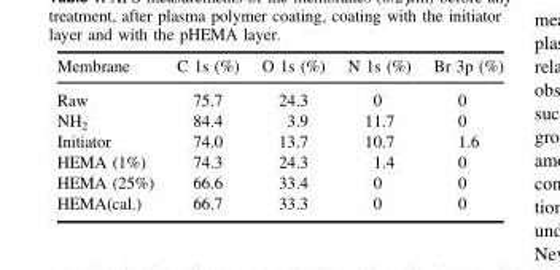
<table><thead><tr><td>Membrane</td><td>C 1s (%)</td><td>O 1s (%)</td><td>N 1s (%)</td><td>Br 3p (%)</td></tr></thead><tbody><tr><td>Raw</td><td>75.7</td><td>24.3</td><td>0</td><td>0</td></tr><tr><td>NH<sub>2</sub></td><td>84.4</td><td>3.9</td><td>11.7</td><td>0</td></tr><tr><td>Initiator</td><td>74.0</td><td>13.7</td><td>10.7</td><td>1.6</td></tr><tr><td>HEMA (1%)</td><td>74.3</td><td>24.3</td><td>1.4</td><td>0</td></tr><tr><td>HEMA (25%)</td><td>66.6</td><td>33.4</td><td>0</td><td>0</td></tr><tr><td>HEMA(cal.)</td><td>66.7</td><td>33.3</td><td>0</td><td>0</td></tr></tbody></table>